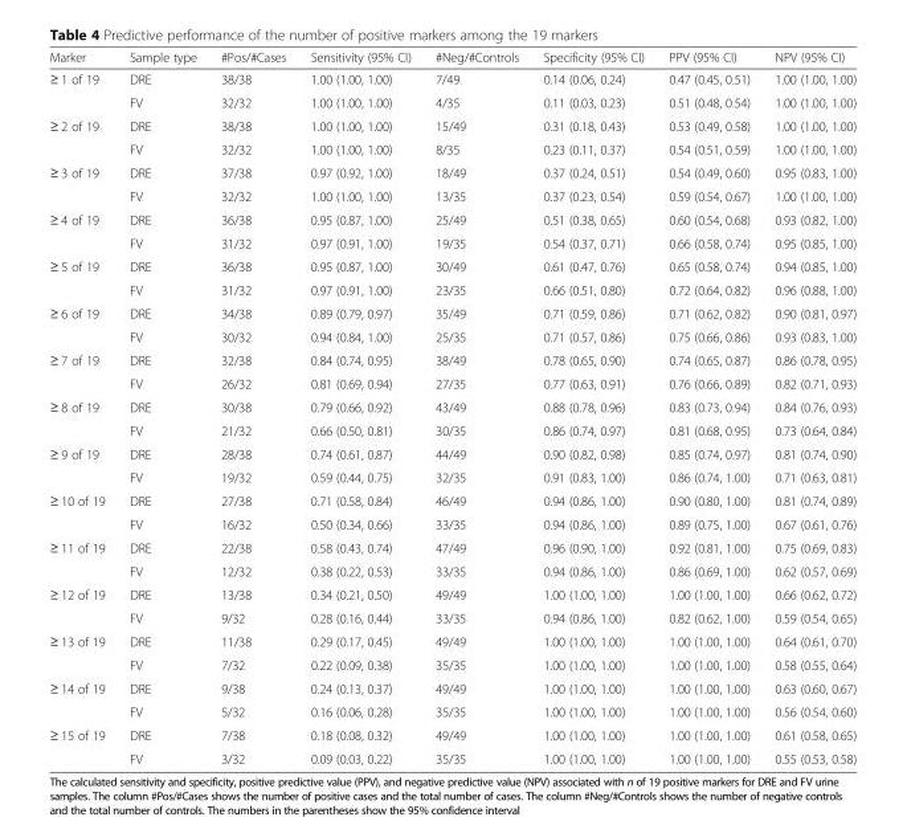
<table><thead><tr><td>Marker</td><td>Sample type</td><td>#Pos/#Cases</td><td>Sensitivity (95% CI)</td><td>#Neg/#Controls</td><td>Specificity (95% CI)</td><td>PPV (95% CI)</td><td>NPV (95% CI)</td></tr></thead><tbody><tr><td rowspan="2">≥ 1 of 19</td><td>DRE</td><td>38/38</td><td>1.00 (1.00, 1.00)</td><td>7/49</td><td>0.14 (0.06, 0.24)</td><td>0.47 (0.45, 0.51)</td><td>1.00 (1.00, 1.00)</td></tr><tr><td>FV</td><td>32/32</td><td>1.00 (1.00, 1.00)</td><td>4/35</td><td>0.11 (0.03, 0.23)</td><td>0.51 (0.48, 0.54)</td><td>1.00 (1.00, 1.00)</td></tr><tr><td rowspan="2">≥ 2 of 19</td><td>DRE</td><td>38/38</td><td>1.00 (1.00, 1.00)</td><td>15/49</td><td>0.31 (0.18, 0.43)</td><td>0.53 (0.49, 0.58)</td><td>1.00 (1.00, 1.00)</td></tr><tr><td>FV</td><td>32/32</td><td>1.00 (1.00, 1.00)</td><td>8/35</td><td>0.23 (0.11, 0.37)</td><td>0.54 (0.51, 0.59)</td><td>1.00 (1.00, 1.00)</td></tr><tr><td rowspan="2">≥ 3 of 19</td><td>DRE</td><td>37/38</td><td>0.97 (0.92, 1.00)</td><td>18/49</td><td>0.37 (0.24, 0.51)</td><td>0.54 (0.49, 0.60)</td><td>0.95 (0.83, 1.00)</td></tr><tr><td>FV</td><td>32/32</td><td>1.00 (1.00, 1.00)</td><td>13/35</td><td>0.37 (0.23, 0.54)</td><td>0.59 (0.54, 0.67)</td><td>1.00 (1.00, 1.00)</td></tr><tr><td rowspan="2">≥ 4 of 19</td><td>DRE</td><td>36/38</td><td>0.95 (0.87, 1.00)</td><td>25/49</td><td>0.51 (0.38, 0.65)</td><td>0.60 (0.54, 0.68)</td><td>0.93 (0.82, 1.00)</td></tr><tr><td>FV</td><td>31/32</td><td>0.97 (0.91, 1.00)</td><td>19/35</td><td>0.54 (0.37, 0.71)</td><td>0.66 (0.58, 0.74)</td><td>0.95 (0.85, 1.00)</td></tr><tr><td rowspan="2">≥ 5 of 19</td><td>DRE</td><td>36/38</td><td>0.95 (0.87, 1.00)</td><td>30/49</td><td>0.61 (0.47, 0.76)</td><td>0.65 (0.58, 0.74)</td><td>0.94 (0.85, 1.00)</td></tr><tr><td>FV</td><td>31/32</td><td>0.97 (0.91, 1.00)</td><td>23/35</td><td>0.66 (0.51, 0.80)</td><td>0.72 (0.64, 0.82)</td><td>0.96 (0.88, 1.00)</td></tr><tr><td rowspan="2">≥ 6 of 19</td><td>DRE</td><td>34/38</td><td>0.89 (0.79, 0.97)</td><td>35/49</td><td>0.71 (0.59, 0.86)</td><td>0.71 (0.62, 0.82)</td><td>0.90 (0.81, 0.97)</td></tr><tr><td>FV</td><td>30/32</td><td>0.94 (0.84, 1.00)</td><td>25/35</td><td>0.71 (0.57, 0.86)</td><td>0.75 (0.66, 0.86)</td><td>0.93 (0.83, 1.00)</td></tr><tr><td rowspan="2">≥ 7 of 19</td><td>DRE</td><td>32/38</td><td>0.84 (0.74, 0.95)</td><td>38/49</td><td>0.78 (0.65, 0.90)</td><td>0.74 (0.65, 0.87)</td><td>0.86 (0.78, 0.95)</td></tr><tr><td>FV</td><td>26/32</td><td>0.81 (0.69, 0.94)</td><td>27/35</td><td>0.77 (0.63, 0.91)</td><td>0.76 (0.66, 0.89)</td><td>0.82 (0.71, 0.93)</td></tr><tr><td rowspan="2">≥ 8 of 19</td><td>DRE</td><td>30/38</td><td>0.79 (0.66, 0.92)</td><td>43/49</td><td>0.88 (0.78, 0.96)</td><td>0.83 (0.73, 0.94)</td><td>0.84 (0.76, 0.93)</td></tr><tr><td>FV</td><td>21/32</td><td>0.66 (0.50, 0.81)</td><td>30/35</td><td>0.86 (0.74, 0.97)</td><td>0.81 (0.68, 0.95)</td><td>0.73 (0.64, 0.84)</td></tr><tr><td rowspan="2">≥ 9 of 19</td><td>DRE</td><td>28/38</td><td>0.74 (0.61, 0.87)</td><td>44/49</td><td>0.90 (0.82, 0.98)</td><td>0.85 (0.74, 0.97)</td><td>0.81 (0.74, 0.90)</td></tr><tr><td>FV</td><td>19/32</td><td>0.59 (0.44, 0.75)</td><td>32/35</td><td>0.91 (0.83, 1.00)</td><td>0.86 (0.74, 1.00)</td><td>0.71 (0.63, 0.81)</td></tr><tr><td rowspan="2">≥ 10 of 19</td><td>DRE</td><td>27/38</td><td>0.71 (0.58, 0.84)</td><td>46/49</td><td>0.94 (0.86, 1.00)</td><td>0.90 (0.80, 1.00)</td><td>0.81 (0.74, 0.89)</td></tr><tr><td>FV</td><td>16/32</td><td>0.50 (0.34, 0.66)</td><td>33/35</td><td>0.94 (0.86, 1.00)</td><td>0.89 (0.75, 1.00)</td><td>0.67 (0.61, 0.76)</td></tr><tr><td rowspan="2">≥ 11 of 19</td><td>DRE</td><td>22/38</td><td>0.58 (0.43, 0.74)</td><td>47/49</td><td>0.96 (0.90, 1.00)</td><td>0.92 (0.81, 1.00)</td><td>0.75 (0.69, 0.83)</td></tr><tr><td>FV</td><td>12/32</td><td>0.38 (0.22, 0.53)</td><td>33/35</td><td>0.94 (0.86, 1.00)</td><td>0.86 (0.69, 1.00)</td><td>0.62 (0.57, 0.69)</td></tr><tr><td rowspan="2">≥ 12 of 19</td><td>DRE</td><td>13/38</td><td>0.34 (0.21, 0.50)</td><td>49/49</td><td>1.00 (1.00, 1.00)</td><td>1.00 (1.00, 1.00)</td><td>0.66 (0.62, 0.72)</td></tr><tr><td>FV</td><td>9/32</td><td>0.28 (0.16, 0.44)</td><td>33/35</td><td>0.94 (0.86, 1.00)</td><td>0.82 (0.62, 1.00)</td><td>0.59 (0.54, 0.65)</td></tr><tr><td rowspan="2">≥ 13 of 19</td><td>DRE</td><td>11/38</td><td>0.29 (0.17, 0.45)</td><td>49/49</td><td>1.00 (1.00, 1.00)</td><td>1.00 (1.00, 1.00)</td><td>0.64 (0.61, 0.70)</td></tr><tr><td>FV</td><td>7/32</td><td>0.22 (0.09, 0.38)</td><td>35/35</td><td>1.00 (1.00, 1.00)</td><td>1.00 (1.00, 1.00)</td><td>0.58 (0.55, 0.64)</td></tr><tr><td rowspan="2">≥ 14 of 19</td><td>DRE</td><td>9/38</td><td>0.24 (0.13, 0.37)</td><td>49/49</td><td>1.00 (1.00, 1.00)</td><td>1.00 (1.00, 1.00)</td><td>0.63 (0.60, 0.67)</td></tr><tr><td>FV</td><td>5/32</td><td>0.16 (0.06, 0.28)</td><td>35/35</td><td>1.00 (1.00, 1.00)</td><td>1.00 (1.00, 1.00)</td><td>0.56 (0.54, 0.60)</td></tr><tr><td rowspan="2">≥ 15 of 19</td><td>DRE</td><td>7/38</td><td>0.18 (0.08, 0.32)</td><td>49/49</td><td>1.00 (1.00, 1.00)</td><td>1.00 (1.00, 1.00)</td><td>0.61 (0.58, 0.65)</td></tr><tr><td>FV</td><td>3/32</td><td>0.09 (0.03, 0.22)</td><td>35/35</td><td>1.00 (1.00, 1.00)</td><td>1.00 (1.00, 1.00)</td><td>0.55 (0.53, 0.58)</td></tr></tbody></table>